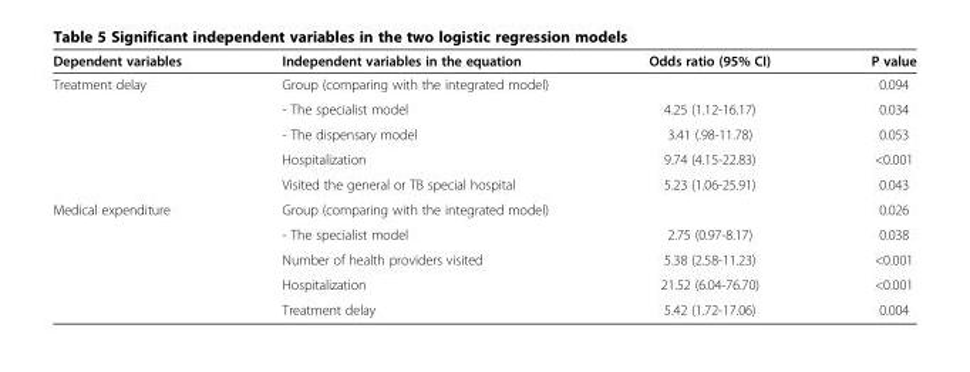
<table><thead><tr><td>Dependent variables</td><td>Independent variables in the equation</td><td>Odds ratio (95% CI)</td><td>P value</td></tr></thead><tbody><tr><td rowspan="5">Treatment delay</td><td>Group (comparing with the integrated model)</td><td></td><td>0.094</td></tr><tr><td>- The specialist model</td><td>4.25 (1.12-16.17)</td><td>0.034</td></tr><tr><td>- The dispensary model</td><td>3.41 (.98-11.78)</td><td>0.053</td></tr><tr><td>Hospitalization</td><td>9.74 (4.15-22.83)</td><td>&lt;0.001</td></tr><tr><td>Visited the general or TB special hospital</td><td>5.23 (1.06-25.91)</td><td>0.043</td></tr><tr><td rowspan="5">Medical expenditure</td><td>Group (comparing with the integrated model)</td><td></td><td>0.026</td></tr><tr><td>- The specialist model</td><td>2.75 (0.97-8.17)</td><td>0.038</td></tr><tr><td>Number of health providers visited</td><td>5.38 (2.58-11.23)</td><td>&lt;0.001</td></tr><tr><td>Hospitalization</td><td>21.52 (6.04-76.70)</td><td>&lt;0.001</td></tr><tr><td>Treatment delay</td><td>5.42 (1.72-17.06)</td><td>0.004</td></tr></tbody></table>